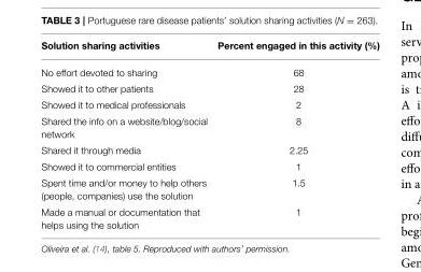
<table><thead><tr><td>Solution sharing activities</td><td>Percent engaged in this activity (%)</td></tr></thead><tbody><tr><td>No effort devoted to sharing</td><td>68</td></tr><tr><td>Showed it to other patients</td><td>28</td></tr><tr><td>Showed it to medical professionals</td><td>2</td></tr><tr><td>Shared the info on a website/blog/social network</td><td>8</td></tr><tr><td>Shared it through media</td><td>2.25</td></tr><tr><td>Showed it to commercial entities</td><td>1</td></tr><tr><td>Spent time and/or money to help others (people, companies) use the solution</td><td>1.5</td></tr><tr><td>Made a manual or documentation that helps using the solution</td><td>1</td></tr></tbody></table>